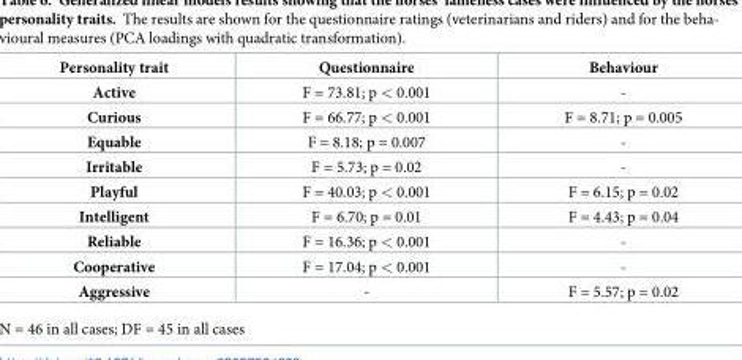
<table><thead><tr><td>Personality trait</td><td>Questionnaire</td><td>Behaviour</td></tr></thead><tbody><tr><td>Active</td><td>F = 73.81; p &lt; 0.001</td><td>-</td></tr><tr><td>Curious</td><td>F = 66.77; p &lt; 0.001</td><td>F = 8.71; p = 0.005</td></tr><tr><td>Equable</td><td>F = 8.18; p = 0.007</td><td>-</td></tr><tr><td>Irritable</td><td>F = 5.73; p = 0.02</td><td>-</td></tr><tr><td>Playful</td><td>F = 40.03; p &lt; 0.001</td><td>F = 6.15; p = 0.02</td></tr><tr><td>Intelligent</td><td>F = 6.70; p = 0.01</td><td>F = 4.43; p = 0.04</td></tr><tr><td>Reliable</td><td>F = 16.36; p &lt; 0.001</td><td>-</td></tr><tr><td>Cooperative</td><td>F = 17.04; p &lt; 0.001</td><td>-</td></tr><tr><td>Aggressive</td><td>-</td><td>F = 5.57; p = 0.02</td></tr></tbody></table>